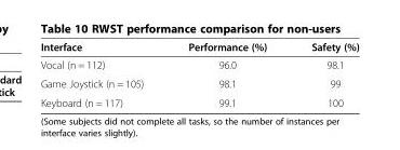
<table><thead><tr><td>Interface</td><td>Performance (%)</td><td>Safety (%)</td></tr></thead><tbody><tr><td>Vocal (n = 112)</td><td>96.0</td><td>98.1</td></tr><tr><td>Game Joystick (n = 105)</td><td>98.1</td><td>99</td></tr><tr><td>Keyboard (n = 117)</td><td>99.1</td><td>100</td></tr></tbody></table>